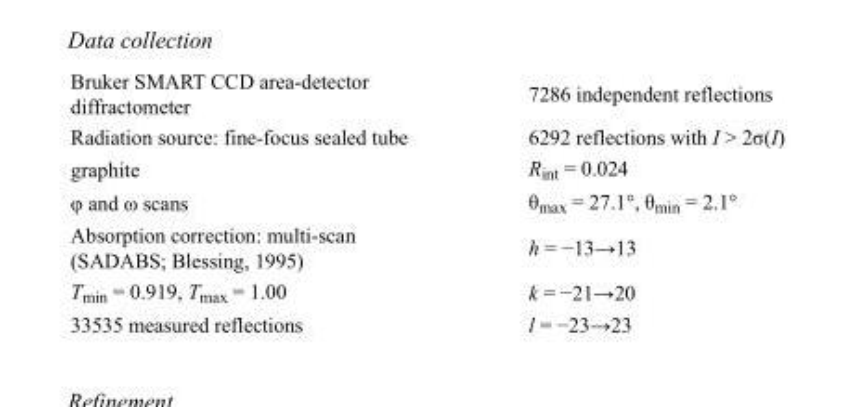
<table><tbody><tr><td>Bruker SMART CCD area-detector diffractometer</td><td>7286 independent reflections</td></tr><tr><td>Radiation source: fine-focus sealed tube</td><td>6292 reflections with I &gt; 2σ(I)</td></tr><tr><td>graphite</td><td>R<sub>int</sub> = 0.024</td></tr><tr><td>φ and ω scans</td><td>θ<sub>max</sub> = 27.1°, θ<sub>min</sub> = 2.1°</td></tr><tr><td>Absorption correction: multi-scan (SADABS; Blessing, 1995)</td><td>h = −13→13</td></tr><tr><td>T<sub>min</sub> = 0.919, T<sub>max</sub> = 1.00</td><td>k = −21→20</td></tr><tr><td>33535 measured reflections</td><td>l = −23→23</td></tr></tbody></table>